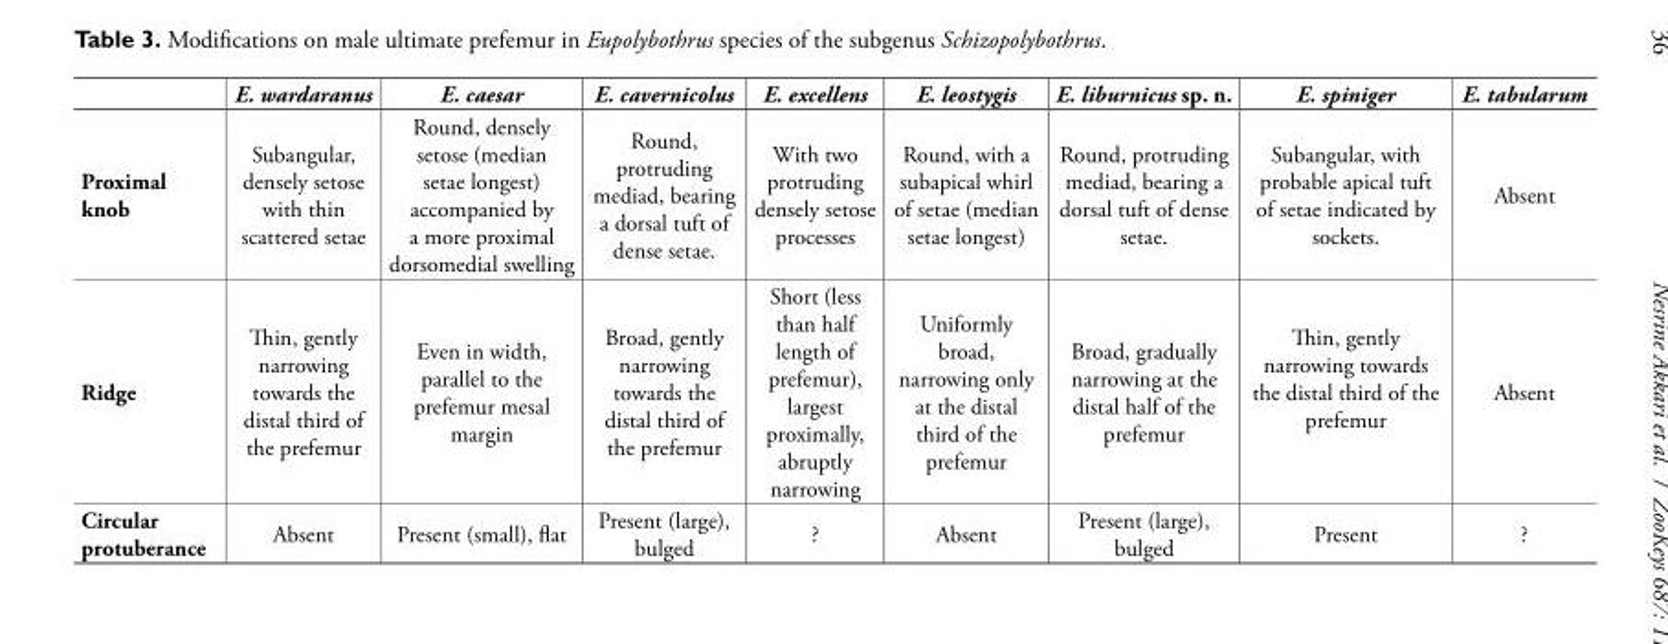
<table><thead><tr><td></td><td>E. wardaranus</td><td>E. caesar</td><td>E. cavernicolus</td><td>E. excellens</td><td>E. leostygis</td><td>E. liburnicus sp. n.</td><td>E. spiniger</td><td>E. tabularum</td></tr></thead><tbody><tr><td>Proximal knob</td><td>Subangular, densely setose with thin scattered setae</td><td>Round, densely setose (median setae longest) accompanied by a more proximal dorsomedial swelling</td><td>Round, protruding mediad, bearing a dorsal tuft of dense setae.</td><td>With two protruding densely setose processes</td><td>Round, with a subapical whirl of setae (median setae longest)</td><td>Round, protruding mediad, bearing a dorsal tuft of dense setae.</td><td>Subangular, with probable apical tuft of setae indicated by sockets.</td><td>Absent</td></tr><tr><td>Ridge</td><td>Thin, gently narrowing towards the distal third of the prefemur</td><td>Even in width, parallel to the prefemur mesal margin</td><td>Broad, gently narrowing towards the distal third of the prefemur</td><td>Short (less than half length of prefemur), largest proximally, abruptly narrowing</td><td>Uniformly broad, narrowing only at the distal third of the prefemur</td><td>Broad, gradually narrowing at the distal half of the prefemur</td><td>Thin, gently narrowing towards the distal third of the prefemur</td><td>Absent</td></tr><tr><td>Circular protuberance</td><td>Absent</td><td>Present (small), flat</td><td>Present (large), bulged</td><td>?</td><td>Absent</td><td>Present (large), bulged</td><td>Present</td><td>?</td></tr></tbody></table>